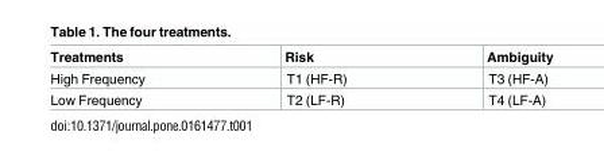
<table><thead><tr><td>Treatments</td><td>Risk</td><td>Ambiguity</td></tr></thead><tbody><tr><td>High Frequency</td><td>T1 (HF-R)</td><td>T3 (HF-A)</td></tr><tr><td>Low Frequency</td><td>T2 (LF-R)</td><td>T4 (LF-A)</td></tr></tbody></table>